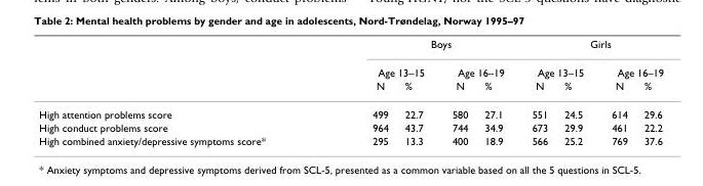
<table><thead><tr><td rowspan="3"></td><td colspan="4">Boys</td><td colspan="4">Girls</td></tr><tr><td colspan="2">Age 13–15</td><td colspan="2">Age 16–19</td><td colspan="2">Age 13–15</td><td colspan="2">Age 16–19</td></tr><tr><td>N</td><td>%</td><td>N</td><td>%</td><td>N</td><td>%</td><td>N</td><td>%</td></tr></thead><tbody><tr><td>High attention problems score</td><td>499</td><td>22.7</td><td>580</td><td>27.1</td><td>551</td><td>24.5</td><td>614</td><td>29.6</td></tr><tr><td>High conduct problems score</td><td>964</td><td>43.7</td><td>744</td><td>34.9</td><td>673</td><td>29.9</td><td>461</td><td>22.2</td></tr><tr><td>High combined anxiety/depressive symptoms score*</td><td>295</td><td>13.3</td><td>400</td><td>18.9</td><td>566</td><td>25.2</td><td>769</td><td>37.6</td></tr></tbody></table>